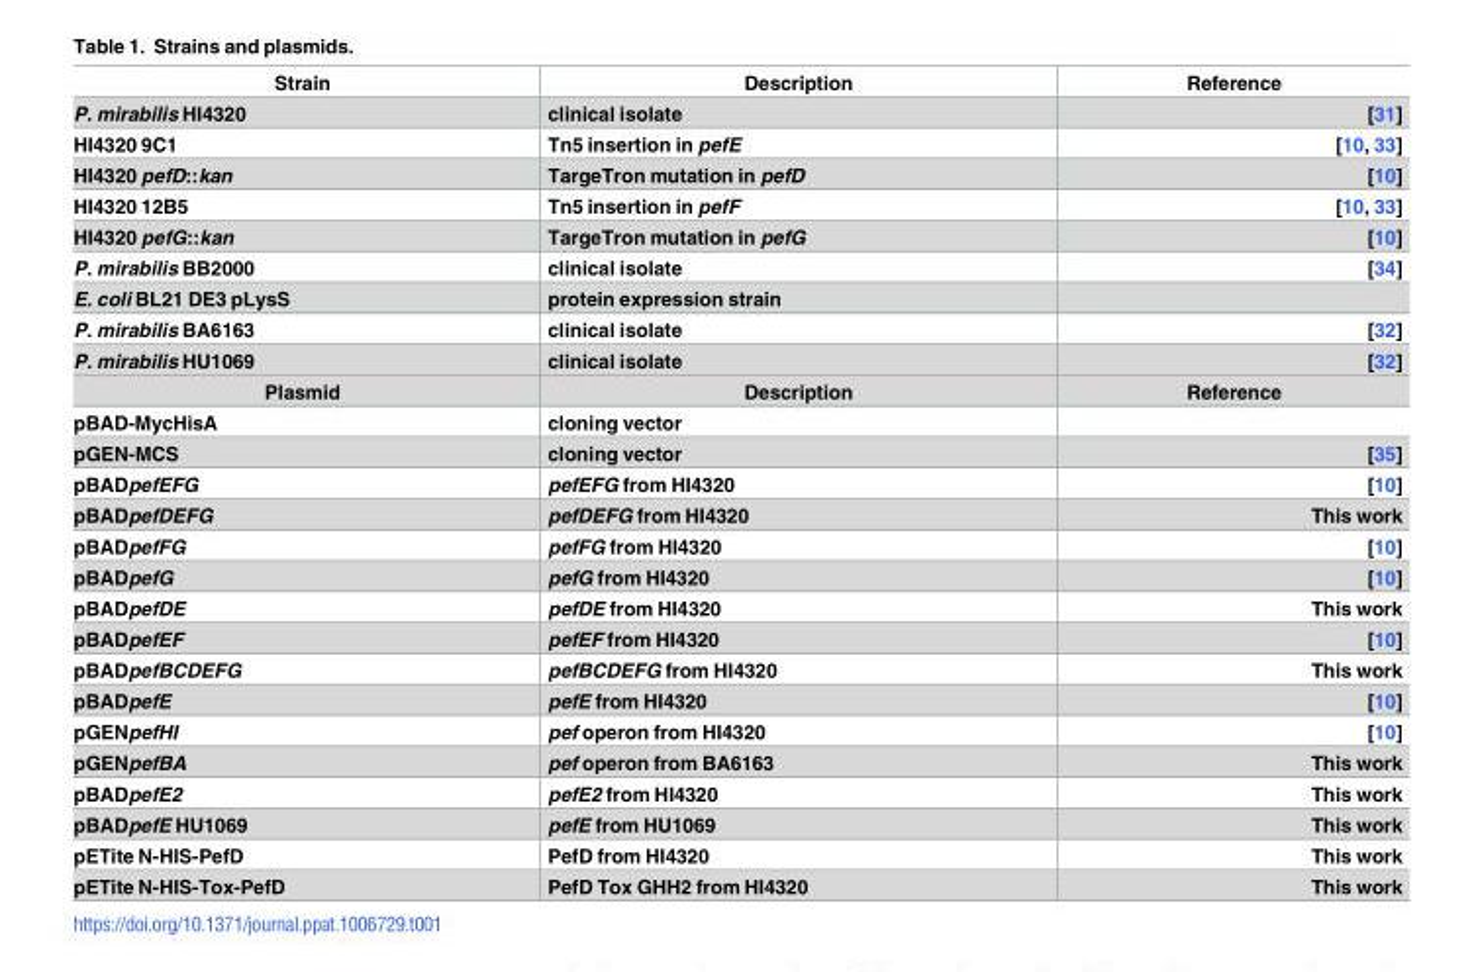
<table><tbody><tr><td>Strain</td><td>Description</td><td>Reference</td></tr><tr><td>P. mirabilis HI4320</td><td>clinical isolate</td><td>[31]</td></tr><tr><td>HI4320 9C1</td><td>Tn5 insertion in pefE</td><td>[10, 33]</td></tr><tr><td>HI4320 pefD::kan</td><td>TargeTron mutation in pefD</td><td>[10]</td></tr><tr><td>HI4320 12B5</td><td>Tn5 insertion in pefF</td><td>[10, 33]</td></tr><tr><td>HI4320 pefG::kan</td><td>TargeTron mutation in pefG</td><td>[10]</td></tr><tr><td>P. mirabilis BB2000</td><td>clinical isolate</td><td>[34]</td></tr><tr><td>E. coli BL21 DE3 pLysS</td><td>protein expression strain</td><td></td></tr><tr><td>P. mirabilis BA6163</td><td>clinical isolate</td><td>[32]</td></tr><tr><td>P. mirabilis HU1069</td><td>clinical isolate</td><td>[32]</td></tr><tr><td>Plasmid</td><td>Description</td><td>Reference</td></tr><tr><td>pBAD-MycHisA</td><td>cloning vector</td><td></td></tr><tr><td>pGEN-MCS</td><td>cloning vector</td><td>[35]</td></tr><tr><td>pBADpefEFG</td><td>pefEFG from HI4320</td><td>[10]</td></tr><tr><td>pBADpefDEFG</td><td>pefDEFG from HI4320</td><td>This work</td></tr><tr><td>pBADpefFG</td><td>pefFG from HI4320</td><td>[10]</td></tr><tr><td>pBADpefG</td><td>pefG from HI4320</td><td>[10]</td></tr><tr><td>pBADpefDE</td><td>pefDE from HI4320</td><td>This work</td></tr><tr><td>pBADpefEF</td><td>pefEF from HI4320</td><td>[10]</td></tr><tr><td>pBADpefBCDEFG</td><td>pefBCDEFG from HI4320</td><td>This work</td></tr><tr><td>pBADpefE</td><td>pefE from HI4320</td><td>[10]</td></tr><tr><td>pGENpefHI</td><td>pef operon from HI4320</td><td>[10]</td></tr><tr><td>pGENpefBA</td><td>pef operon from BA6163</td><td>This work</td></tr><tr><td>pBADpefE2</td><td>pefE2 from HI4320</td><td>This work</td></tr><tr><td>pBADpefE HU1069</td><td>pefE from HU1069</td><td>This work</td></tr><tr><td>pETite N-HIS-PefD</td><td>PefD from HI4320</td><td>This work</td></tr><tr><td>pETite N-HIS-Tox-PefD</td><td>PefD Tox GHH2 from HI4320</td><td>This work</td></tr></tbody></table>